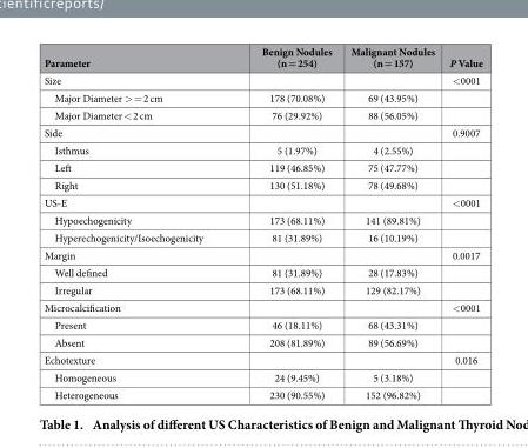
<table><thead><tr><td>Parameter</td><td>Benign Nodules (n = 254)</td><td>Malignant Nodules (n = 157)</td><td>P Value</td></tr></thead><tbody><tr><td>Size</td><td></td><td></td><td>&lt; 0001</td></tr><tr><td>Major Diameter &gt; = 2 cm</td><td>178 (70.08%)</td><td>69 (43.95%)</td><td></td></tr><tr><td>Major Diameter &lt; 2 cm</td><td>76 (29.92%)</td><td>88 (56.05%)</td><td></td></tr><tr><td>Side</td><td></td><td></td><td>0.9007</td></tr><tr><td>Isthmus</td><td>5 (1.97%)</td><td>4 (2.55%)</td><td></td></tr><tr><td>Left</td><td>119 (46.85%)</td><td>75 (47.77%)</td><td></td></tr><tr><td>Right</td><td>130 (51.18%)</td><td>78 (49.68%)</td><td></td></tr><tr><td>US-E</td><td></td><td></td><td>&lt; 0001</td></tr><tr><td>Hypoechogenicity</td><td>173 (68.11%)</td><td>141 (89.81%)</td><td></td></tr><tr><td>Hyperechogenicity/Isoechogenicity</td><td>81 (31.89%)</td><td>16 (10.19%)</td><td></td></tr><tr><td>Margin</td><td></td><td></td><td>0.0017</td></tr><tr><td>Well defined</td><td>81 (31.89%)</td><td>28 (17.83%)</td><td></td></tr><tr><td>Irregular</td><td>173 (68.11%)</td><td>129 (82.17%)</td><td></td></tr><tr><td>Microcalcification</td><td></td><td></td><td>&lt; 0001</td></tr><tr><td>Present</td><td>46 (18.11%)</td><td>68 (43.31%)</td><td></td></tr><tr><td>Absent</td><td>208 (81.89%)</td><td>89 (56.69%)</td><td></td></tr><tr><td>Echotexture</td><td></td><td></td><td>0.016</td></tr><tr><td>Homogeneous</td><td>24 (9.45%)</td><td>5 (3.18%)</td><td></td></tr><tr><td>Heterogeneous</td><td>230 (90.55%)</td><td>152 (96.82%)</td><td></td></tr></tbody></table>